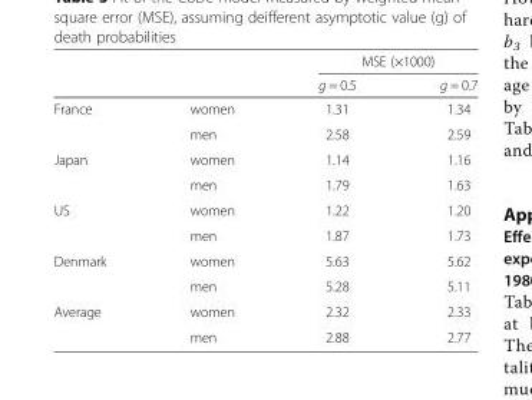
<table><thead><tr><td rowspan="2"></td><td rowspan="2"></td><td colspan="2">MSE (×1000)</td></tr><tr><td>g = 0.5</td><td>g = 0.7</td></tr></thead><tbody><tr><td rowspan="2">France</td><td>women</td><td>1.31</td><td>1.34</td></tr><tr><td>men</td><td>2.58</td><td>2.59</td></tr><tr><td rowspan="2">Japan</td><td>women</td><td>1.14</td><td>1.16</td></tr><tr><td>men</td><td>1.79</td><td>1.63</td></tr><tr><td rowspan="2">US</td><td>women</td><td>1.22</td><td>1.20</td></tr><tr><td>men</td><td>1.87</td><td>1.73</td></tr><tr><td rowspan="2">Denmark</td><td>women</td><td>5.63</td><td>5.62</td></tr><tr><td>men</td><td>5.28</td><td>5.11</td></tr><tr><td rowspan="2">Average</td><td>women</td><td>2.32</td><td>2.33</td></tr><tr><td>men</td><td>2.88</td><td>2.77</td></tr></tbody></table>